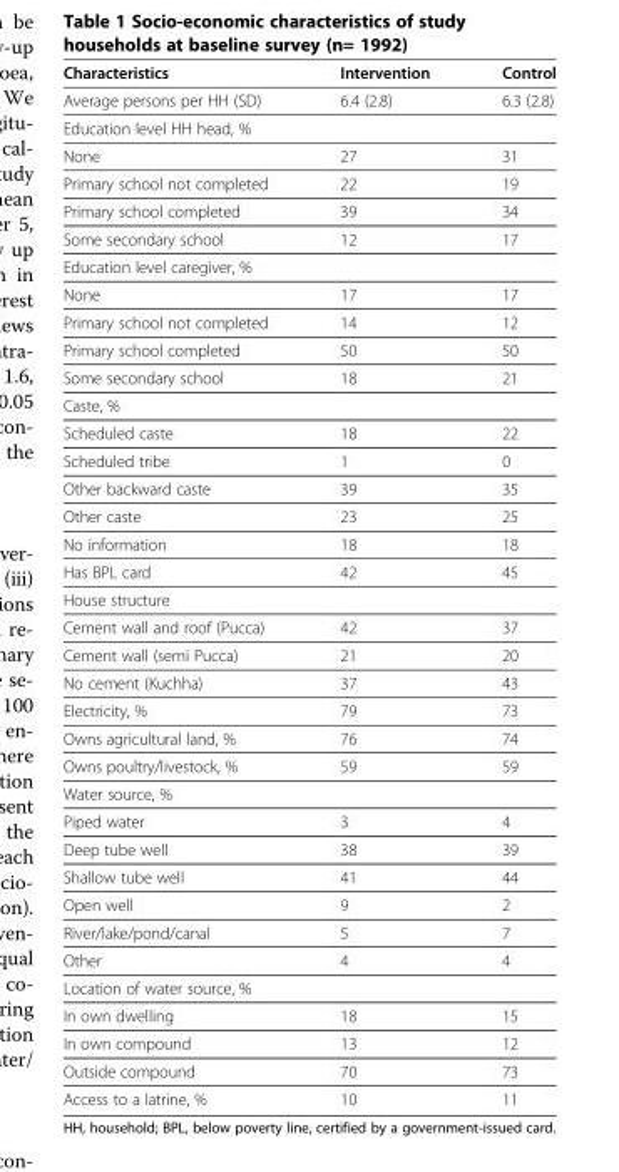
<table><thead><tr><td>Characteristics</td><td>Intervention</td><td>Control</td></tr></thead><tbody><tr><td>Average persons per HH (SD)</td><td>6.4 (2.8)</td><td>6.3 (2.8)</td></tr><tr><td colspan="3">Education level HH head, %</td></tr><tr><td>None</td><td>27</td><td>31</td></tr><tr><td>Primary school not completed</td><td>22</td><td>19</td></tr><tr><td>Primary school completed</td><td>39</td><td>34</td></tr><tr><td>Some secondary school</td><td>12</td><td>17</td></tr><tr><td colspan="3">Education level caregiver, %</td></tr><tr><td>None</td><td>17</td><td>17</td></tr><tr><td>Primary school not completed</td><td>14</td><td>12</td></tr><tr><td>Primary school completed</td><td>50</td><td>50</td></tr><tr><td>Some secondary school</td><td>18</td><td>21</td></tr><tr><td colspan="3">Caste, %</td></tr><tr><td>Scheduled caste</td><td>18</td><td>22</td></tr><tr><td>Scheduled tribe</td><td>1</td><td>0</td></tr><tr><td>Other backward caste</td><td>39</td><td>35</td></tr><tr><td>Other caste</td><td>23</td><td>25</td></tr><tr><td>No information</td><td>18</td><td>18</td></tr><tr><td>Has BPL card</td><td>42</td><td>45</td></tr><tr><td colspan="3">House structure</td></tr><tr><td>Cement wall and roof (Pucca)</td><td>42</td><td>37</td></tr><tr><td>Cement wall (semi Pucca)</td><td>21</td><td>20</td></tr><tr><td>No cement (Kuchha)</td><td>37</td><td>43</td></tr><tr><td>Electricity, %</td><td>79</td><td>73</td></tr><tr><td>Owns agricultural land, %</td><td>76</td><td>74</td></tr><tr><td>Owns poultry/livestock, %</td><td>59</td><td>59</td></tr><tr><td colspan="3">Water source, %</td></tr><tr><td>Piped water</td><td>3</td><td>4</td></tr><tr><td>Deep tube well</td><td>38</td><td>39</td></tr><tr><td>Shallow tube well</td><td>41</td><td>44</td></tr><tr><td>Open well</td><td>9</td><td>2</td></tr><tr><td>River/lake/pond/canal</td><td>5</td><td>7</td></tr><tr><td>Other</td><td>4</td><td>4</td></tr><tr><td colspan="3">Location of water source, %</td></tr><tr><td>In own dwelling</td><td>18</td><td>15</td></tr><tr><td>In own compound</td><td>13</td><td>12</td></tr><tr><td>Outside compound</td><td>70</td><td>73</td></tr><tr><td>Access to a latrine, %</td><td>10</td><td>11</td></tr></tbody></table>